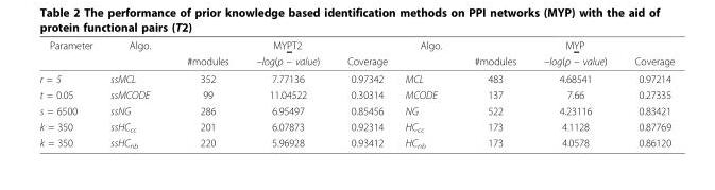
<table><thead><tr><td rowspan="2">Parameter</td><td rowspan="2">Algo.</td><td colspan="3">MYPT2</td><td rowspan="2">Algo.</td><td colspan="3">MYP</td></tr><tr><td>#modules</td><td>–log(p – value)</td><td>Coverage</td><td>#modules</td><td>–log(p – value)</td><td>Coverage</td></tr></thead><tbody><tr><td>r = 5</td><td>ssMCL</td><td>352</td><td>7.77136</td><td>0.97342</td><td>MCL</td><td>483</td><td>4.68541</td><td>0.97214</td></tr><tr><td>t = 0.05</td><td>ssMCODE</td><td>99</td><td>11.04522</td><td>0.30314</td><td>MCODE</td><td>137</td><td>7.66</td><td>0.27335</td></tr><tr><td>s = 6500</td><td>ssNG</td><td>286</td><td>6.95497</td><td>0.85456</td><td>NG</td><td>522</td><td>4.23116</td><td>0.83421</td></tr><tr><td>k = 350</td><td>ssHC<sub>cc</sub></td><td>201</td><td>6.07873</td><td>0.92314</td><td>HC<sub>cc</sub></td><td>173</td><td>4.1128</td><td>0.87769</td></tr><tr><td>k = 350</td><td>ssHC<sub>nb</sub></td><td>220</td><td>5.96928</td><td>0.93412</td><td>HC<sub>nb</sub></td><td>173</td><td>4.0578</td><td>0.86120</td></tr></tbody></table>